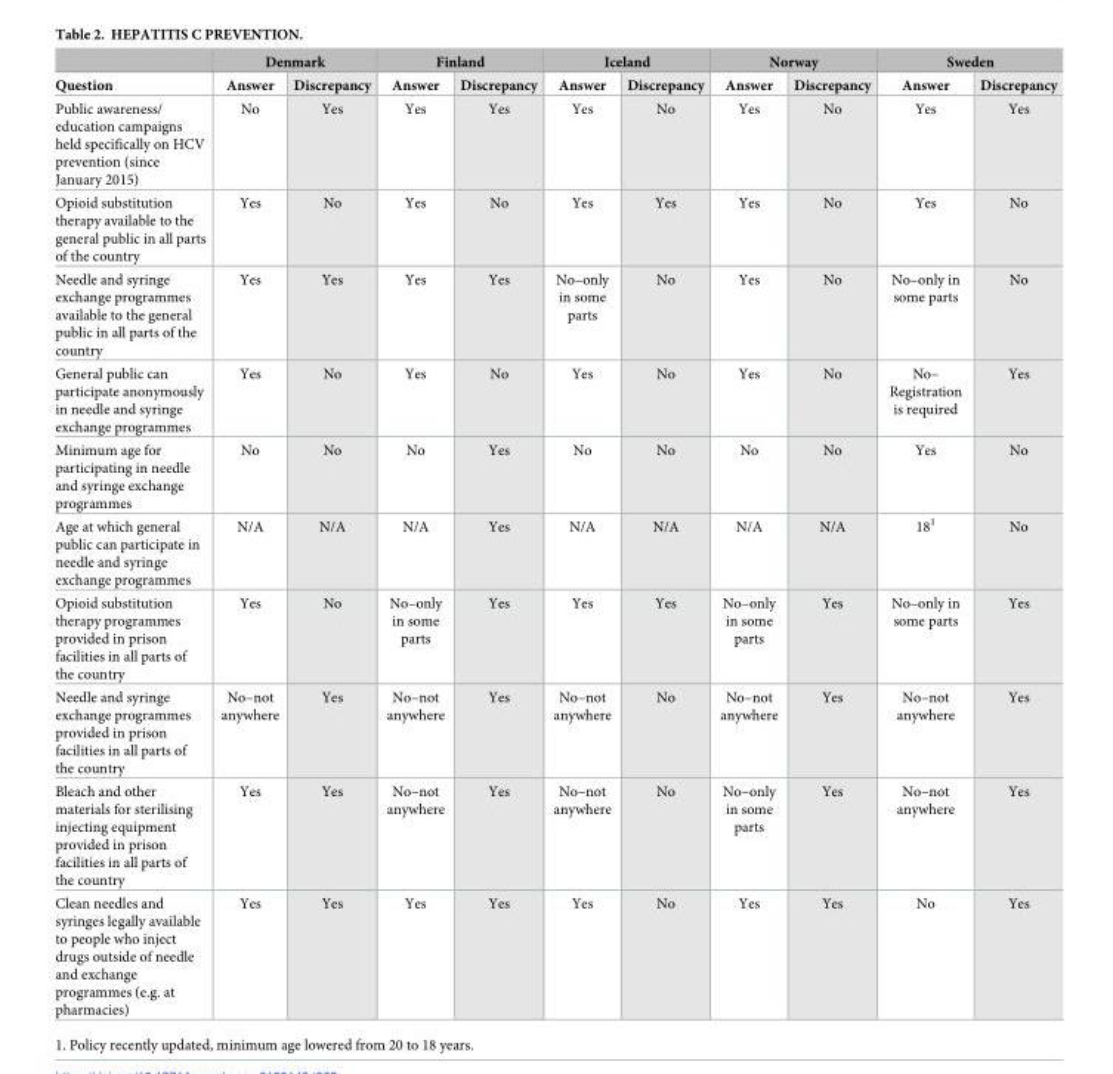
<table><thead><tr><td rowspan="2">Question</td><td colspan="2">Denmark</td><td colspan="2">Finland</td><td colspan="2">Iceland</td><td colspan="2">Norway</td><td colspan="2">Sweden</td></tr><tr><td>Answer</td><td>Discrepancy</td><td>Answer</td><td>Discrepancy</td><td>Answer</td><td>Discrepancy</td><td>Answer</td><td>Discrepancy</td><td>Answer</td><td>Discrepancy</td></tr></thead><tbody><tr><td>Public awareness/ education campaigns held specifically on HCV prevention (since January 2015)</td><td>No</td><td>Yes</td><td>Yes</td><td>Yes</td><td>Yes</td><td>No</td><td>Yes</td><td>No</td><td>Yes</td><td>Yes</td></tr><tr><td>Opioid substitution therapy available to the general public in all parts of the country</td><td>Yes</td><td>No</td><td>Yes</td><td>No</td><td>Yes</td><td>Yes</td><td>Yes</td><td>No</td><td>Yes</td><td>No</td></tr><tr><td>Needle and syringe exchange programmes available to the general public in all parts of the country</td><td>Yes</td><td>Yes</td><td>Yes</td><td>Yes</td><td>No–only in some parts</td><td>No</td><td>Yes</td><td>No</td><td>No–only in some parts</td><td>No</td></tr><tr><td>General public can participate anonymously in needle and syringe exchange programmes</td><td>Yes</td><td>No</td><td>Yes</td><td>No</td><td>Yes</td><td>No</td><td>Yes</td><td>No</td><td>No– Registration is required</td><td>Yes</td></tr><tr><td>Minimum age for participating in needle and syringe exchange programmes</td><td>No</td><td>No</td><td>No</td><td>Yes</td><td>No</td><td>No</td><td>No</td><td>No</td><td>Yes</td><td>No</td></tr><tr><td>Age at which general public can participate in needle and syringe exchange programmes</td><td>N/A</td><td>N/A</td><td>N/A</td><td>Yes</td><td>N/A</td><td>N/A</td><td>N/A</td><td>N/A</td><td>18<sup>1</sup></td><td>No</td></tr><tr><td>Opioid substitution therapy programmes provided in prison facilities in all parts of the country</td><td>Yes</td><td>No</td><td>No–only in some parts</td><td>Yes</td><td>Yes</td><td>Yes</td><td>No–only in some parts</td><td>Yes</td><td>No–only in some parts</td><td>Yes</td></tr><tr><td>Needle and syringe exchange programmes provided in prison facilities in all parts of the country</td><td>No–not anywhere</td><td>Yes</td><td>No–not anywhere</td><td>Yes</td><td>No–not anywhere</td><td>No</td><td>No–not anywhere</td><td>Yes</td><td>No–not anywhere</td><td>Yes</td></tr><tr><td>Bleach and other materials for sterilising injecting equipment provided in prison facilities in all parts of the country</td><td>Yes</td><td>Yes</td><td>No–not anywhere</td><td>Yes</td><td>No–not anywhere</td><td>No</td><td>No–only in some parts</td><td>Yes</td><td>No–not anywhere</td><td>Yes</td></tr><tr><td>Clean needles and syringes legally available to people who inject drugs outside of needle and exchange programmes (e.g. at pharmacies)</td><td>Yes</td><td>Yes</td><td>Yes</td><td>Yes</td><td>Yes</td><td>No</td><td>Yes</td><td>Yes</td><td>No</td><td>Yes</td></tr></tbody></table>